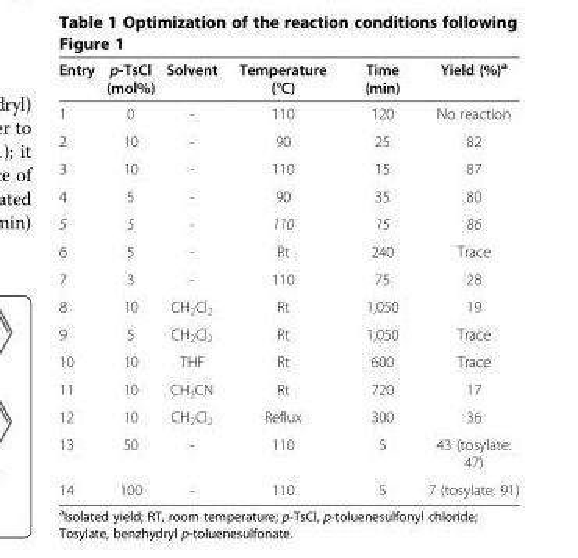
<table><thead><tr><td>Entry</td><td>p-TsCl (mol%)</td><td>Solvent</td><td>Temperature (°C)</td><td>Time (min)</td><td>Yield (%)<sup>a</sup></td></tr></thead><tbody><tr><td>1</td><td>0</td><td>-</td><td>110</td><td>120</td><td>No reaction</td></tr><tr><td>2</td><td>10</td><td>-</td><td>90</td><td>25</td><td>82</td></tr><tr><td>3</td><td>10</td><td>-</td><td>110</td><td>15</td><td>87</td></tr><tr><td>4</td><td>5</td><td>-</td><td>90</td><td>35</td><td>80</td></tr><tr><td>5</td><td>5</td><td>-</td><td>110</td><td>15</td><td>86</td></tr><tr><td>6</td><td>5</td><td>-</td><td>Rt</td><td>240</td><td>Trace</td></tr><tr><td>7</td><td>3</td><td>-</td><td>110</td><td>75</td><td>28</td></tr><tr><td>8</td><td>10</td><td>CH<sub>2</sub>Cl<sub>2</sub></td><td>Rt</td><td>1,050</td><td>19</td></tr><tr><td>9</td><td>5</td><td>CH<sub>2</sub>Cl<sub>2</sub></td><td>Rt</td><td>1,050</td><td>Trace</td></tr><tr><td>10</td><td>10</td><td>THF</td><td>Rt</td><td>600</td><td>Trace</td></tr><tr><td>11</td><td>10</td><td>CH<sub>3</sub>CN</td><td>Rt</td><td>720</td><td>17</td></tr><tr><td>12</td><td>10</td><td>CH<sub>2</sub>Cl<sub>2</sub></td><td>Reflux</td><td>300</td><td>36</td></tr><tr><td>13</td><td>50</td><td>-</td><td>110</td><td>5</td><td>43 (tosylate: 47)</td></tr><tr><td>14</td><td>100</td><td>-</td><td>110</td><td>5</td><td>7 (tosylate: 91)</td></tr></tbody></table>